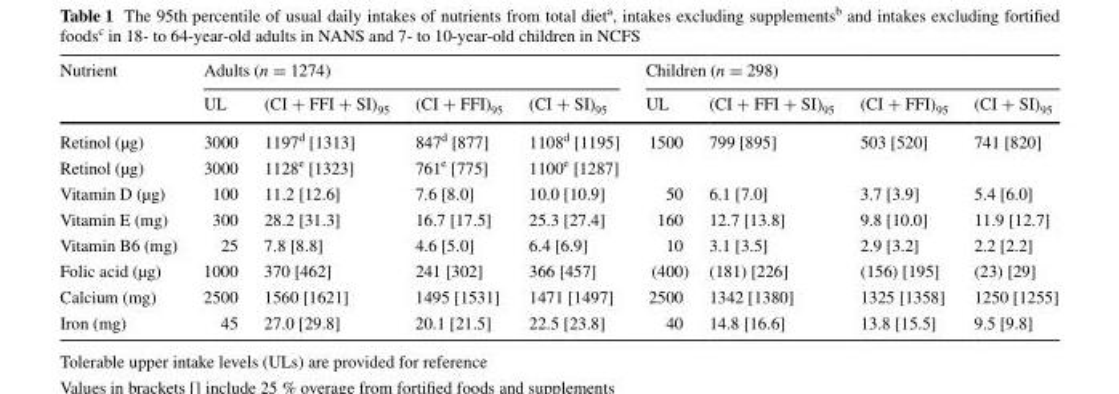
<table><thead><tr><td rowspan="2">Nutrient</td><td colspan="4">Adults (n = 1274)</td><td colspan="4">Children (n = 298)</td></tr><tr><td>UL</td><td>(CI + FFI + SI)<sub>95</sub></td><td>(CI + FFI)<sub>95</sub></td><td>(CI + SI)<sub>95</sub></td><td>UL</td><td>(CI + FFI + SI)<sub>95</sub></td><td>(CI + FFI)<sub>95</sub></td><td>(CI + SI)<sub>95</sub></td></tr></thead><tbody><tr><td>Retinol (µg)</td><td>3000</td><td>1197<sup>d</sup> [1313]</td><td>847<sup>d</sup> [877]</td><td>1108<sup>d</sup> [1195]</td><td>1500</td><td>799 [895]</td><td>503 [520]</td><td>741 [820]</td></tr><tr><td>Retinol (µg)</td><td>3000</td><td>1128<sup>e</sup> [1323]</td><td>761<sup>e</sup> [775]</td><td>1100<sup>e</sup> [1287]</td><td></td><td></td><td></td><td></td></tr><tr><td>Vitamin D (µg)</td><td>100</td><td>11.2 [12.6]</td><td>7.6 [8.0]</td><td>10.0 [10.9]</td><td>50</td><td>6.1 [7.0]</td><td>3.7 [3.9]</td><td>5.4 [6.0]</td></tr><tr><td>Vitamin E (mg)</td><td>300</td><td>28.2 [31.3]</td><td>16.7 [17.5]</td><td>25.3 [27.4]</td><td>160</td><td>12.7 [13.8]</td><td>9.8 [10.0]</td><td>11.9 [12.7]</td></tr><tr><td>Vitamin B6 (mg)</td><td>25</td><td>7.8 [8.8]</td><td>4.6 [5.0]</td><td>6.4 [6.9]</td><td>10</td><td>3.1 [3.5]</td><td>2.9 [3.2]</td><td>2.2 [2.2]</td></tr><tr><td>Folic acid (µg)</td><td>1000</td><td>370 [462]</td><td>241 [302]</td><td>366 [457]</td><td>(400)</td><td>(181) [226]</td><td>(156) [195]</td><td>(23) [29]</td></tr><tr><td>Calcium (mg)</td><td>2500</td><td>1560 [1621]</td><td>1495 [1531]</td><td>1471 [1497]</td><td>2500</td><td>1342 [1380]</td><td>1325 [1358]</td><td>1250 [1255]</td></tr><tr><td>Iron (mg)</td><td>45</td><td>27.0 [29.8]</td><td>20.1 [21.5]</td><td>22.5 [23.8]</td><td>40</td><td>14.8 [16.6]</td><td>13.8 [15.5]</td><td>9.5 [9.8]</td></tr></tbody></table>